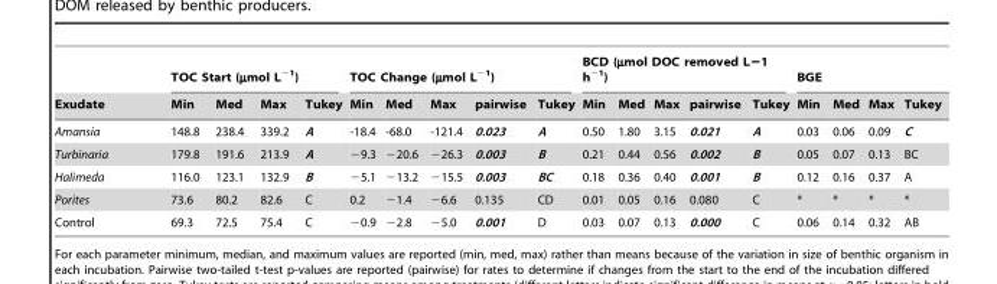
<table><thead><tr><td rowspan="2">Exudate</td><td colspan="4">TOC Start (µmol L<sup>−1</sup>)</td><td colspan="5">TOC Change (µmol L<sup>−1</sup>)</td><td colspan="5">BCD (µmol DOC removed L−1 h<sup>−1</sup>)</td><td colspan="4">BGE</td></tr><tr><td>Min</td><td>Med</td><td>Max</td><td>Tukey</td><td>Min</td><td>Med</td><td>Max</td><td>pairwise</td><td>Tukey</td><td>Min</td><td>Med</td><td>Max</td><td>pairwise</td><td>Tukey</td><td>Min</td><td>Med</td><td>Max</td><td>Tukey</td></tr></thead><tbody><tr><td>Amansia</td><td>148.8</td><td>238.4</td><td>339.2</td><td>A</td><td>-18.4</td><td>-68.0</td><td>-121.4</td><td>0.023</td><td>A</td><td>0.50</td><td>1.80</td><td>3.15</td><td>0.021</td><td>A</td><td>0.03</td><td>0.06</td><td>0.09</td><td>C</td></tr><tr><td>Turbinaria</td><td>179.8</td><td>191.6</td><td>213.9</td><td>A</td><td>−9.3</td><td>−20.6</td><td>−26.3</td><td>0.003</td><td>B</td><td>0.21</td><td>0.44</td><td>0.56</td><td>0.002</td><td>B</td><td>0.05</td><td>0.07</td><td>0.13</td><td>BC</td></tr><tr><td>Halimeda</td><td>116.0</td><td>123.1</td><td>132.9</td><td>B</td><td>−5.1</td><td>−13.2</td><td>−15.5</td><td>0.003</td><td>BC</td><td>0.18</td><td>0.36</td><td>0.40</td><td>0.001</td><td>B</td><td>0.12</td><td>0.16</td><td>0.37</td><td>A</td></tr><tr><td>Porites</td><td>73.6</td><td>80.2</td><td>82.6</td><td>C</td><td>0.2</td><td>−1.4</td><td>−6.6</td><td>0.135</td><td>CD</td><td>0.01</td><td>0.05</td><td>0.16</td><td>0.080</td><td>C</td><td>*</td><td>*</td><td>*</td><td>*</td></tr><tr><td>Control</td><td>69.3</td><td>72.5</td><td>75.4</td><td>C</td><td>−0.9</td><td>−2.8</td><td>−5.0</td><td>0.001</td><td>D</td><td>0.03</td><td>0.07</td><td>0.13</td><td>0.000</td><td>C</td><td>0.06</td><td>0.14</td><td>0.32</td><td>AB</td></tr></tbody></table>